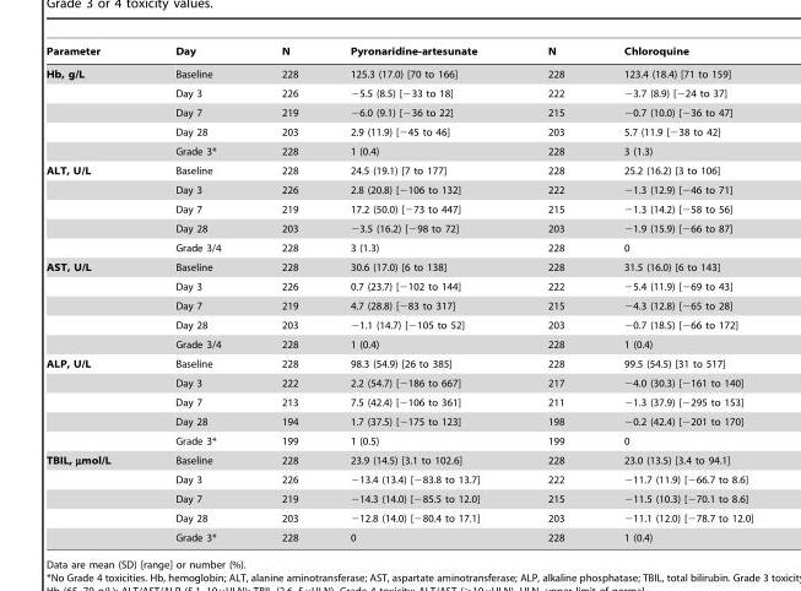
<table><thead><tr><td>Parameter</td><td>Day</td><td>N</td><td>Pyronaridine-artesunate</td><td>N</td><td>Chloroquine</td></tr></thead><tbody><tr><td rowspan="5">Hb, g/L</td><td>Baseline</td><td>228</td><td>125.3 (17.0) [70 to 166]</td><td>228</td><td>123.4 (18.4) [71 to 159]</td></tr><tr><td>Day 3</td><td>226</td><td>−5.5 (8.5) [−33 to 18]</td><td>222</td><td>−3.7 (8.9) [−24 to 37]</td></tr><tr><td>Day 7</td><td>219</td><td>−6.0 (9.1) [−36 to 22]</td><td>215</td><td>−0.7 (10.0) [−36 to 47]</td></tr><tr><td>Day 28</td><td>203</td><td>2.9 (11.9) [−45 to 46]</td><td>203</td><td>5.7 (11.9 [−38 to 42]</td></tr><tr><td>Grade 3*</td><td>228</td><td>1 (0.4)</td><td>228</td><td>3 (1.3)</td></tr><tr><td rowspan="5">ALT, U/L</td><td>Baseline</td><td>228</td><td>24.5 (19.1) [7 to 177]</td><td>228</td><td>25.2 (16.2) [3 to 106]</td></tr><tr><td>Day 3</td><td>226</td><td>2.8 (20.8) [−106 to 132]</td><td>222</td><td>−1.3 (12.9) [−46 to 71]</td></tr><tr><td>Day 7</td><td>219</td><td>17.2 (50.0) [−73 to 447]</td><td>215</td><td>−1.3 (14.2) [−58 to 56]</td></tr><tr><td>Day 28</td><td>203</td><td>−3.5 (16.2) [−98 to 72]</td><td>203</td><td>−1.9 (15.9) [−66 to 87]</td></tr><tr><td>Grade 3/4</td><td>228</td><td>3 (1.3)</td><td>228</td><td>0</td></tr><tr><td rowspan="5">AST, U/L</td><td>Baseline</td><td>228</td><td>30.6 (17.0) [6 to 138]</td><td>228</td><td>31.5 (16.0) [6 to 143]</td></tr><tr><td>Day 3</td><td>226</td><td>0.7 (23.7) [−102 to 144]</td><td>222</td><td>−5.4 (11.9) [−69 to 43]</td></tr><tr><td>Day 7</td><td>219</td><td>4.7 (28.8) [−83 to 317]</td><td>215</td><td>−4.3 (12.8) [−65 to 28]</td></tr><tr><td>Day 28</td><td>203</td><td>−1.1 (14.7) [−105 to 52]</td><td>203</td><td>−0.7 (18.5) [−66 to 172]</td></tr><tr><td>Grade 3/4</td><td>228</td><td>1 (0.4)</td><td>228</td><td>1 (0.4)</td></tr><tr><td rowspan="5">ALP, U/L</td><td>Baseline</td><td>228</td><td>98.3 (54.9) [26 to 385]</td><td>228</td><td>99.5 (54.5) [31 to 517]</td></tr><tr><td>Day 3</td><td>222</td><td>2.2 (54.7) [−186 to 667]</td><td>217</td><td>−4.0 (30.3) [−161 to 140]</td></tr><tr><td>Day 7</td><td>213</td><td>7.5 (42.4) [−106 to 361]</td><td>211</td><td>−1.3 (37.9) [−295 to 153]</td></tr><tr><td>Day 28</td><td>194</td><td>1.7 (37.5) [−175 to 123]</td><td>198</td><td>−0.2 (42.4) [−201 to 170]</td></tr><tr><td>Grade 3*</td><td>199</td><td>1 (0.5)</td><td>199</td><td>0</td></tr><tr><td rowspan="5">TBIL, µmol/L</td><td>Baseline</td><td>228</td><td>23.9 (14.5) [3.1 to 102.6]</td><td>228</td><td>23.0 (13.5) [3.4 to 94.1]</td></tr><tr><td>Day 3</td><td>226</td><td>−13.4 (13.4) [−83.8 to 13.7]</td><td>222</td><td>−11.7 (11.9) [−66.7 to 8.6]</td></tr><tr><td>Day 7</td><td>219</td><td>−14.3 (14.0) [−85.5 to 12.0]</td><td>215</td><td>−11.5 (10.3) [−70.1 to 8.6]</td></tr><tr><td>Day 28</td><td>203</td><td>−12.8 (14.0) [−80.4 to 17.1]</td><td>203</td><td>−11.1 (12.0) [−78.7 to 12.0]</td></tr><tr><td>Grade 3*</td><td>228</td><td>0</td><td>228</td><td>1 (0.4)</td></tr></tbody></table>